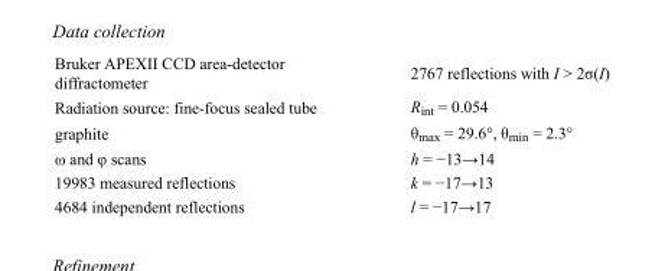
<table><tbody><tr><td>Bruker APEXII CCD area-detector diffractometer</td><td>2767 reflections with I &gt; 2σ(I)</td></tr><tr><td>Radiation source: fine-focus sealed tube</td><td>R<sub>int</sub> = 0.054</td></tr><tr><td>graphite</td><td>θ<sub>max</sub> = 29.6°, θ<sub>min</sub> = 2.3°</td></tr><tr><td>ω and φ scans</td><td>h = −13→14</td></tr><tr><td>19983 measured reflections</td><td>k = −17→13</td></tr><tr><td>4684 independent reflections</td><td>l = −17→17</td></tr></tbody></table>